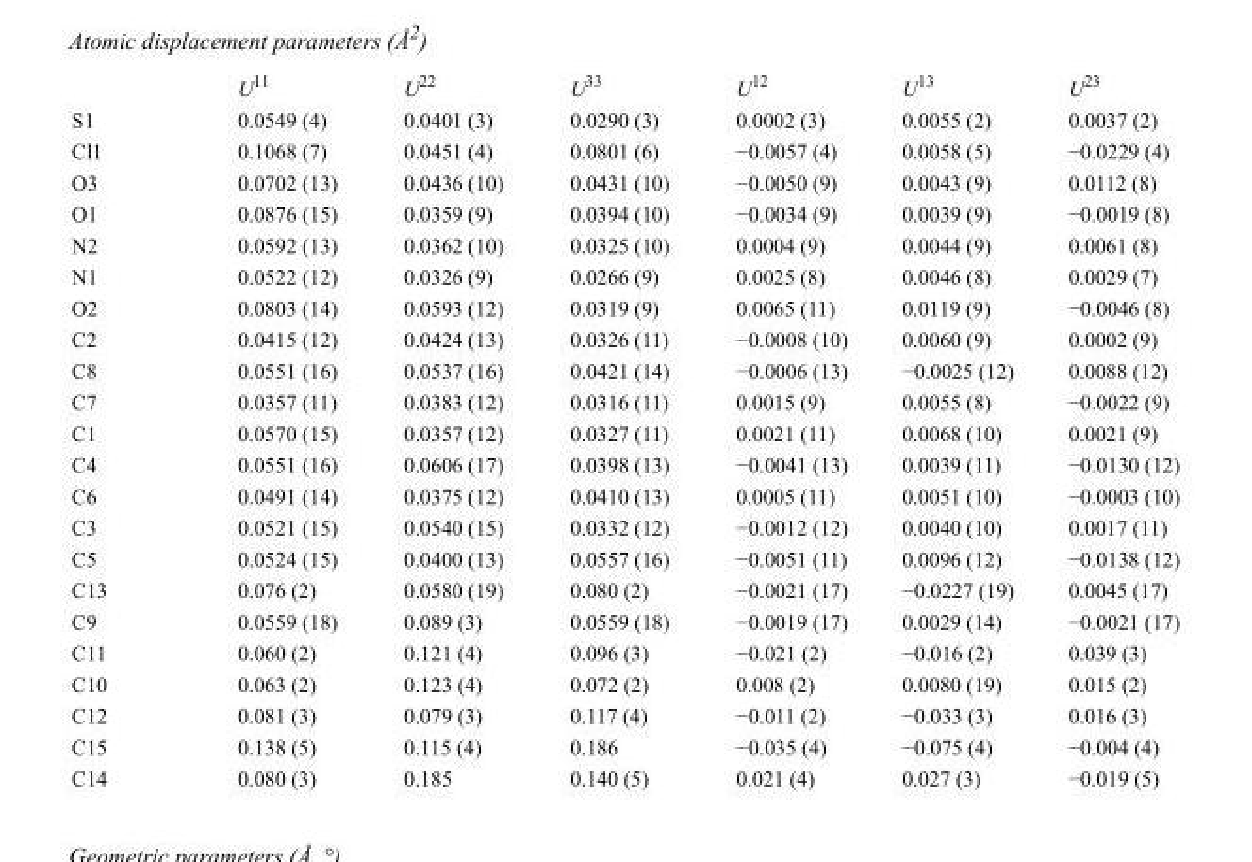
<table><thead><tr><td></td><td>U<sup>11</sup></td><td>U<sup>22</sup></td><td>U<sup>33</sup></td><td>U<sup>12</sup></td><td>U<sup>13</sup></td><td>U<sup>23</sup></td></tr></thead><tbody><tr><td>S1</td><td>0.0549 (4)</td><td>0.0401 (3)</td><td>0.0290 (3)</td><td>0.0002 (3)</td><td>0.0055 (2)</td><td>0.0037 (2)</td></tr><tr><td>Cl1</td><td>0.1068 (7)</td><td>0.0451 (4)</td><td>0.0801 (6)</td><td>−0.0057 (4)</td><td>0.0058 (5)</td><td>−0.0229 (4)</td></tr><tr><td>O3</td><td>0.0702 (13)</td><td>0.0436 (10)</td><td>0.0431 (10)</td><td>−0.0050 (9)</td><td>0.0043 (9)</td><td>0.0112 (8)</td></tr><tr><td>O1</td><td>0.0876 (15)</td><td>0.0359 (9)</td><td>0.0394 (10)</td><td>−0.0034 (9)</td><td>0.0039 (9)</td><td>−0.0019 (8)</td></tr><tr><td>N2</td><td>0.0592 (13)</td><td>0.0362 (10)</td><td>0.0325 (10)</td><td>0.0004 (9)</td><td>0.0044 (9)</td><td>0.0061 (8)</td></tr><tr><td>N1</td><td>0.0522 (12)</td><td>0.0326 (9)</td><td>0.0266 (9)</td><td>0.0025 (8)</td><td>0.0046 (8)</td><td>0.0029 (7)</td></tr><tr><td>O2</td><td>0.0803 (14)</td><td>0.0593 (12)</td><td>0.0319 (9)</td><td>0.0065 (11)</td><td>0.0119 (9)</td><td>−0.0046 (8)</td></tr><tr><td>C2</td><td>0.0415 (12)</td><td>0.0424 (13)</td><td>0.0326 (11)</td><td>−0.0008 (10)</td><td>0.0060 (9)</td><td>0.0002 (9)</td></tr><tr><td>C8</td><td>0.0551 (16)</td><td>0.0537 (16)</td><td>0.0421 (14)</td><td>−0.0006 (13)</td><td>−0.0025 (12)</td><td>0.0088 (12)</td></tr><tr><td>C7</td><td>0.0357 (11)</td><td>0.0383 (12)</td><td>0.0316 (11)</td><td>0.0015 (9)</td><td>0.0055 (8)</td><td>−0.0022 (9)</td></tr><tr><td>C1</td><td>0.0570 (15)</td><td>0.0357 (12)</td><td>0.0327 (11)</td><td>0.0021 (11)</td><td>0.0068 (10)</td><td>0.0021 (9)</td></tr><tr><td>C4</td><td>0.0551 (16)</td><td>0.0606 (17)</td><td>0.0398 (13)</td><td>−0.0041 (13)</td><td>0.0039 (11)</td><td>−0.0130 (12)</td></tr><tr><td>C6</td><td>0.0491 (14)</td><td>0.0375 (12)</td><td>0.0410 (13)</td><td>0.0005 (11)</td><td>0.0051 (10)</td><td>−0.0003 (10)</td></tr><tr><td>C3</td><td>0.0521 (15)</td><td>0.0540 (15)</td><td>0.0332 (12)</td><td>−0.0012 (12)</td><td>0.0040 (10)</td><td>0.0017 (11)</td></tr><tr><td>C5</td><td>0.0524 (15)</td><td>0.0400 (13)</td><td>0.0557 (16)</td><td>−0.0051 (11)</td><td>0.0096 (12)</td><td>−0.0138 (12)</td></tr><tr><td>C13</td><td>0.076 (2)</td><td>0.0580 (19)</td><td>0.080 (2)</td><td>−0.0021 (17)</td><td>−0.0227 (19)</td><td>0.0045 (17)</td></tr><tr><td>C9</td><td>0.0559 (18)</td><td>0.089 (3)</td><td>0.0559 (18)</td><td>−0.0019 (17)</td><td>0.0029 (14)</td><td>−0.0021 (17)</td></tr><tr><td>C11</td><td>0.060 (2)</td><td>0.121 (4)</td><td>0.096 (3)</td><td>−0.021 (2)</td><td>−0.016 (2)</td><td>0.039 (3)</td></tr><tr><td>C10</td><td>0.063 (2)</td><td>0.123 (4)</td><td>0.072 (2)</td><td>0.008 (2)</td><td>0.0080 (19)</td><td>0.015 (2)</td></tr><tr><td>C12</td><td>0.081 (3)</td><td>0.079 (3)</td><td>0.117 (4)</td><td>−0.011 (2)</td><td>−0.033 (3)</td><td>0.016 (3)</td></tr><tr><td>C15</td><td>0.138 (5)</td><td>0.115 (4)</td><td>0.186</td><td>−0.035 (4)</td><td>−0.075 (4)</td><td>−0.004 (4)</td></tr><tr><td>C14</td><td>0.080 (3)</td><td>0.185</td><td>0.140 (5)</td><td>0.021 (4)</td><td>0.027 (3)</td><td>−0.019 (5)</td></tr></tbody></table>